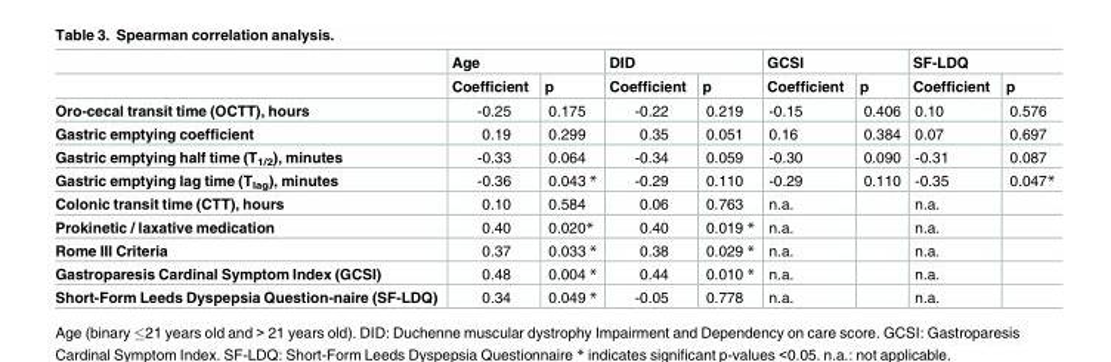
<table><thead><tr><td rowspan="2"></td><td colspan="2">Age</td><td colspan="2">DID</td><td colspan="2">GCSI</td><td colspan="2">SF-LDQ</td></tr><tr><td>Coefficient</td><td>p</td><td>Coefficient</td><td>p</td><td>Coefficient</td><td>p</td><td>Coefficient</td><td>p</td></tr></thead><tbody><tr><td>Oro-cecal transit time (OCTT), hours</td><td>-0.25</td><td>0.175</td><td>-0.22</td><td>0.219</td><td>-0.15</td><td>0.406</td><td>0.10</td><td>0.576</td></tr><tr><td>Gastric emptying coefficient</td><td>0.19</td><td>0.299</td><td>0.35</td><td>0.051</td><td>0.16</td><td>0.384</td><td>0.07</td><td>0.697</td></tr><tr><td>Gastric emptying half time (T<sub>1/2</sub>), minutes</td><td>-0.33</td><td>0.064</td><td>-0.34</td><td>0.059</td><td>-0.30</td><td>0.090</td><td>-0.31</td><td>0.087</td></tr><tr><td>Gastric emptying lag time (T<sub>lag</sub>), minutes</td><td>-0.36</td><td>0.043 *</td><td>-0.29</td><td>0.110</td><td>-0.29</td><td>0.110</td><td>-0.35</td><td>0.047*</td></tr><tr><td>Colonic transit time (CTT), hours</td><td>0.10</td><td>0.584</td><td>0.06</td><td>0.763</td><td>n.a.</td><td></td><td>n.a.</td><td></td></tr><tr><td>Prokinetic / laxative medication</td><td>0.40</td><td>0.020*</td><td>0.40</td><td>0.019 *</td><td>n.a.</td><td></td><td>n.a.</td><td></td></tr><tr><td>Rome III Criteria</td><td>0.37</td><td>0.033 *</td><td>0.38</td><td>0.029 *</td><td>n.a.</td><td></td><td>n.a.</td><td></td></tr><tr><td>Gastroparesis Cardinal Symptom Index (GCSI)</td><td>0.48</td><td>0.004 *</td><td>0.44</td><td>0.010 *</td><td>n.a.</td><td></td><td>n.a.</td><td></td></tr><tr><td>Short-Form Leeds Dyspepsia Question-naire (SF-LDQ)</td><td>0.34</td><td>0.049 *</td><td>-0.05</td><td>0.778</td><td>n.a.</td><td></td><td>n.a.</td><td></td></tr></tbody></table>